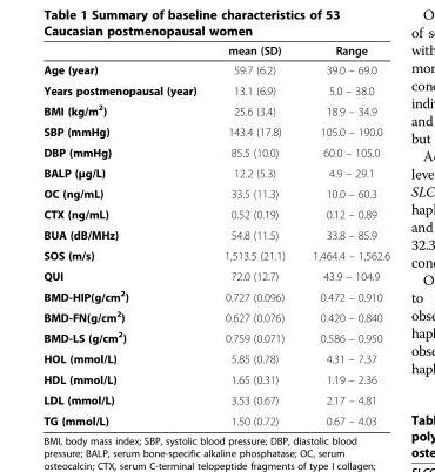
<table><thead><tr><td></td><td>mean (SD)</td><td>Range</td></tr></thead><tbody><tr><td>Age (year)</td><td>59.7 (6.2)</td><td>39.0 – 69.0</td></tr><tr><td>Years postmenopausal (year)</td><td>13.1 (6.9)</td><td>5.0 – 38.0</td></tr><tr><td>BMI (kg/m<sup>2</sup>)</td><td>25.6 (3.4)</td><td>18.9 – 34.9</td></tr><tr><td>SBP (mmHg)</td><td>143.4 (17.8)</td><td>105.0 – 190.0</td></tr><tr><td>DBP (mmHg)</td><td>85.5 (10.0)</td><td>60.0 – 105.0</td></tr><tr><td>BALP (μg/L)</td><td>12.2 (5.3)</td><td>4.9 – 29.1</td></tr><tr><td>OC (ng/mL)</td><td>33.5 (11.3)</td><td>10.0 – 60.3</td></tr><tr><td>CTX (ng/mL)</td><td>0.52 (0.19)</td><td>0.12 – 0.89</td></tr><tr><td>BUA (dB/MHz)</td><td>54.8 (11.5)</td><td>33.8 – 85.9</td></tr><tr><td>SOS (m/s)</td><td>1,513.5 (21.1)</td><td>1,464.4 – 1,562.6</td></tr><tr><td>QUI</td><td>72.0 (12.7)</td><td>43.9 – 104.9</td></tr><tr><td>BMD-HIP(g/cm<sup>2</sup>)</td><td>0.727 (0.096)</td><td>0.472 – 0.910</td></tr><tr><td>BMD-FN(g/cm<sup>2</sup>)</td><td>0.627 (0.076)</td><td>0.420 – 0.840</td></tr><tr><td>BMD-LS (g/cm<sup>2</sup>)</td><td>0.759 (0.071)</td><td>0.586 – 0.950</td></tr><tr><td>HOL (mmol/L)</td><td>5.85 (0.78)</td><td>4.31 – 7.37</td></tr><tr><td>HDL (mmol/L)</td><td>1.65 (0.31)</td><td>1.19 – 2.36</td></tr><tr><td>LDL (mmol/L)</td><td>3.53 (0.67)</td><td>2.17 – 4.81</td></tr><tr><td>TG (mmol/L)</td><td>1.50 (0.72)</td><td>0.67 – 4.03</td></tr></tbody></table>